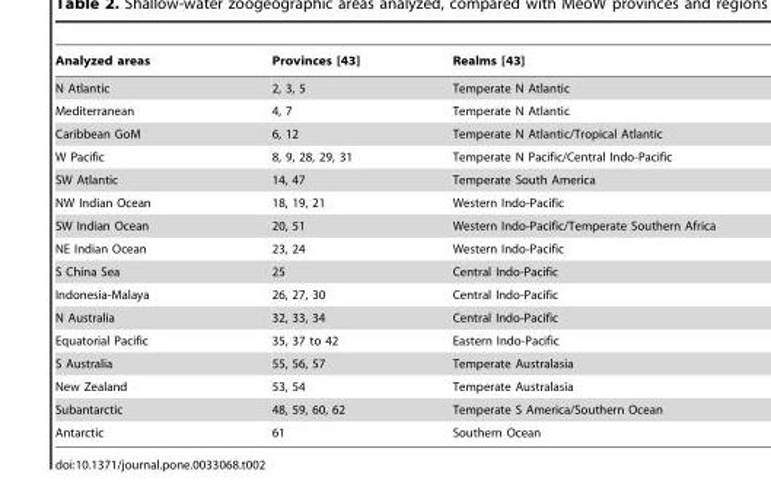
<table><thead><tr><td>Analyzed areas</td><td>Provinces [43]</td><td>Realms [43]</td></tr></thead><tbody><tr><td>N Atlantic</td><td>2, 3, 5</td><td>Temperate N Atlantic</td></tr><tr><td>Mediterranean</td><td>4, 7</td><td>Temperate N Atlantic</td></tr><tr><td>Caribbean GoM</td><td>6, 12</td><td>Temperate N Atlantic/Tropical Atlantic</td></tr><tr><td>W Pacific</td><td>8, 9, 28, 29, 31</td><td>Temperate N Pacific/Central Indo-Pacific</td></tr><tr><td>SW Atlantic</td><td>14, 47</td><td>Temperate South America</td></tr><tr><td>NW Indian Ocean</td><td>18, 19, 21</td><td>Western Indo-Pacific</td></tr><tr><td>SW Indian Ocean</td><td>20, 51</td><td>Western Indo-Pacific/Temperate Southern Africa</td></tr><tr><td>NE Indian Ocean</td><td>23, 24</td><td>Western Indo-Pacific</td></tr><tr><td>S China Sea</td><td>25</td><td>Central Indo-Pacific</td></tr><tr><td>Indonesia-Malaya</td><td>26, 27, 30</td><td>Central Indo-Pacific</td></tr><tr><td>N Australia</td><td>32, 33, 34</td><td>Central Indo-Pacific</td></tr><tr><td>Equatorial Pacific</td><td>35, 37 to 42</td><td>Eastern Indo-Pacific</td></tr><tr><td>S Australia</td><td>55, 56, 57</td><td>Temperate Australasia</td></tr><tr><td>New Zealand</td><td>53, 54</td><td>Temperate Australasia</td></tr><tr><td>Subantarctic</td><td>48, 59, 60, 62</td><td>Temperate S America/Southern Ocean</td></tr><tr><td>Antarctic</td><td>61</td><td>Southern Ocean</td></tr></tbody></table>